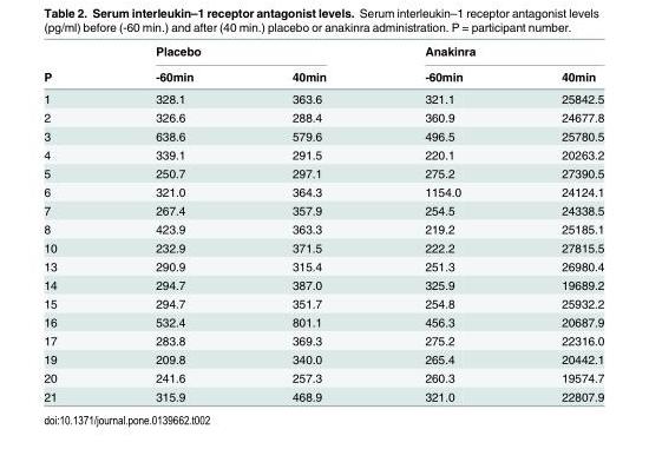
<table><thead><tr><td rowspan="2">P</td><td colspan="2">Placebo</td><td colspan="2">Anakinra</td></tr><tr><td>-60min</td><td>40min</td><td>-60min</td><td>40min</td></tr></thead><tbody><tr><td>1</td><td>328.1</td><td>363.6</td><td>321.1</td><td>25842.5</td></tr><tr><td>2</td><td>326.6</td><td>288.4</td><td>360.9</td><td>24677.8</td></tr><tr><td>3</td><td>638.6</td><td>579.6</td><td>496.5</td><td>25780.5</td></tr><tr><td>4</td><td>339.1</td><td>291.5</td><td>220.1</td><td>20263.2</td></tr><tr><td>5</td><td>250.7</td><td>297.1</td><td>275.2</td><td>27390.5</td></tr><tr><td>6</td><td>321.0</td><td>364.3</td><td>1154.0</td><td>24124.1</td></tr><tr><td>7</td><td>267.4</td><td>357.9</td><td>254.5</td><td>24338.5</td></tr><tr><td>8</td><td>423.9</td><td>363.3</td><td>219.2</td><td>25185.1</td></tr><tr><td>10</td><td>232.9</td><td>371.5</td><td>222.2</td><td>27815.5</td></tr><tr><td>13</td><td>290.9</td><td>315.4</td><td>251.3</td><td>26980.4</td></tr><tr><td>14</td><td>294.7</td><td>387.0</td><td>325.9</td><td>19689.2</td></tr><tr><td>15</td><td>294.7</td><td>351.7</td><td>254.8</td><td>25932.2</td></tr><tr><td>16</td><td>532.4</td><td>801.1</td><td>456.3</td><td>20687.9</td></tr><tr><td>17</td><td>283.8</td><td>369.3</td><td>275.2</td><td>22316.0</td></tr><tr><td>19</td><td>209.8</td><td>340.0</td><td>265.4</td><td>20442.1</td></tr><tr><td>20</td><td>241.6</td><td>257.3</td><td>260.3</td><td>19574.7</td></tr><tr><td>21</td><td>315.9</td><td>468.9</td><td>321.0</td><td>22807.9</td></tr></tbody></table>